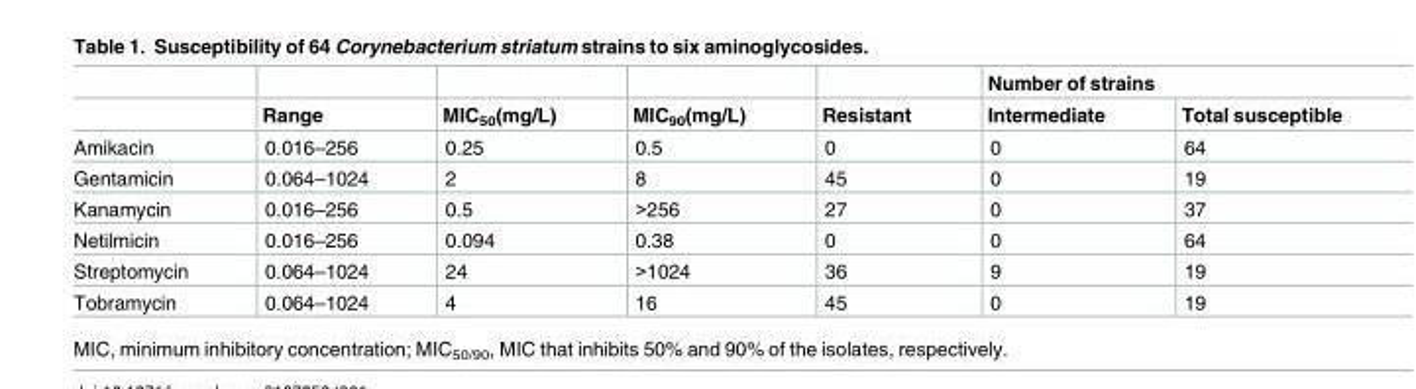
<table><thead><tr><td rowspan="2"></td><td rowspan="2">Range</td><td rowspan="2">MIC<sub>50</sub>(mg/L)</td><td rowspan="2">MIC<sub>90</sub>(mg/L)</td><td rowspan="2">Resistant</td><td colspan="2">Number of strains</td></tr><tr><td>Intermediate</td><td>Total susceptible</td></tr></thead><tbody><tr><td>Amikacin</td><td>0.016–256</td><td>0.25</td><td>0.5</td><td>0</td><td>0</td><td>64</td></tr><tr><td>Gentamicin</td><td>0.064–1024</td><td>2</td><td>8</td><td>45</td><td>0</td><td>19</td></tr><tr><td>Kanamycin</td><td>0.016–256</td><td>0.5</td><td>&gt;256</td><td>27</td><td>0</td><td>37</td></tr><tr><td>Netilmicin</td><td>0.016–256</td><td>0.094</td><td>0.38</td><td>0</td><td>0</td><td>64</td></tr><tr><td>Streptomycin</td><td>0.064–1024</td><td>24</td><td>&gt;1024</td><td>36</td><td>9</td><td>19</td></tr><tr><td>Tobramycin</td><td>0.064–1024</td><td>4</td><td>16</td><td>45</td><td>0</td><td>19</td></tr></tbody></table>